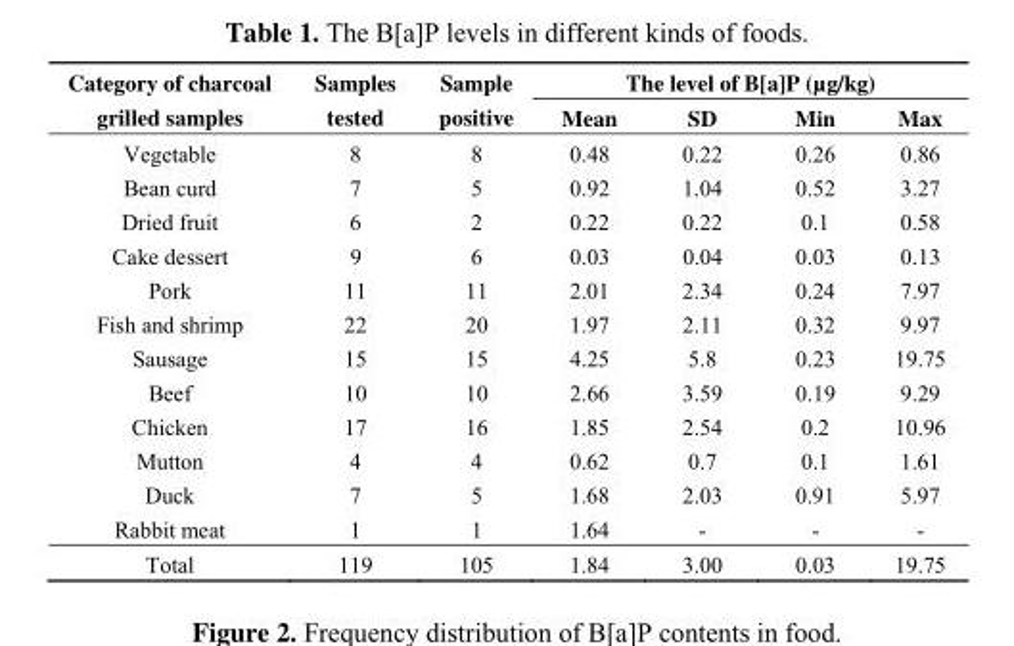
<table><thead><tr><td rowspan="2">Category of charcoal grilled samples</td><td rowspan="2">Samples tested</td><td rowspan="2">Sample positive</td><td colspan="4">The level of B[a]P (µg/kg)</td></tr><tr><td>Mean</td><td>SD</td><td>Min</td><td>Max</td></tr></thead><tbody><tr><td>Vegetable</td><td>8</td><td>8</td><td>0.48</td><td>0.22</td><td>0.26</td><td>0.86</td></tr><tr><td>Bean curd</td><td>7</td><td>5</td><td>0.92</td><td>1.04</td><td>0.52</td><td>3.27</td></tr><tr><td>Dried fruit</td><td>6</td><td>2</td><td>0.22</td><td>0.22</td><td>0.1</td><td>0.58</td></tr><tr><td>Cake dessert</td><td>9</td><td>6</td><td>0.03</td><td>0.04</td><td>0.03</td><td>0.13</td></tr><tr><td>Pork</td><td>11</td><td>11</td><td>2.01</td><td>2.34</td><td>0.24</td><td>7.97</td></tr><tr><td>Fish and shrimp</td><td>22</td><td>20</td><td>1.97</td><td>2.11</td><td>0.32</td><td>9.97</td></tr><tr><td>Sausage</td><td>15</td><td>15</td><td>4.25</td><td>5.8</td><td>0.23</td><td>19.75</td></tr><tr><td>Beef</td><td>10</td><td>10</td><td>2.66</td><td>3.59</td><td>0.19</td><td>9.29</td></tr><tr><td>Chicken</td><td>17</td><td>16</td><td>1.85</td><td>2.54</td><td>0.2</td><td>10.96</td></tr><tr><td>Mutton</td><td>4</td><td>4</td><td>0.62</td><td>0.7</td><td>0.1</td><td>1.61</td></tr><tr><td>Duck</td><td>7</td><td>5</td><td>1.68</td><td>2.03</td><td>0.91</td><td>5.97</td></tr><tr><td>Rabbit meat</td><td>1</td><td>1</td><td>1.64</td><td>-</td><td>-</td><td>-</td></tr><tr><td>Total</td><td>119</td><td>105</td><td>1.84</td><td>3.00</td><td>0.03</td><td>19.75</td></tr></tbody></table>